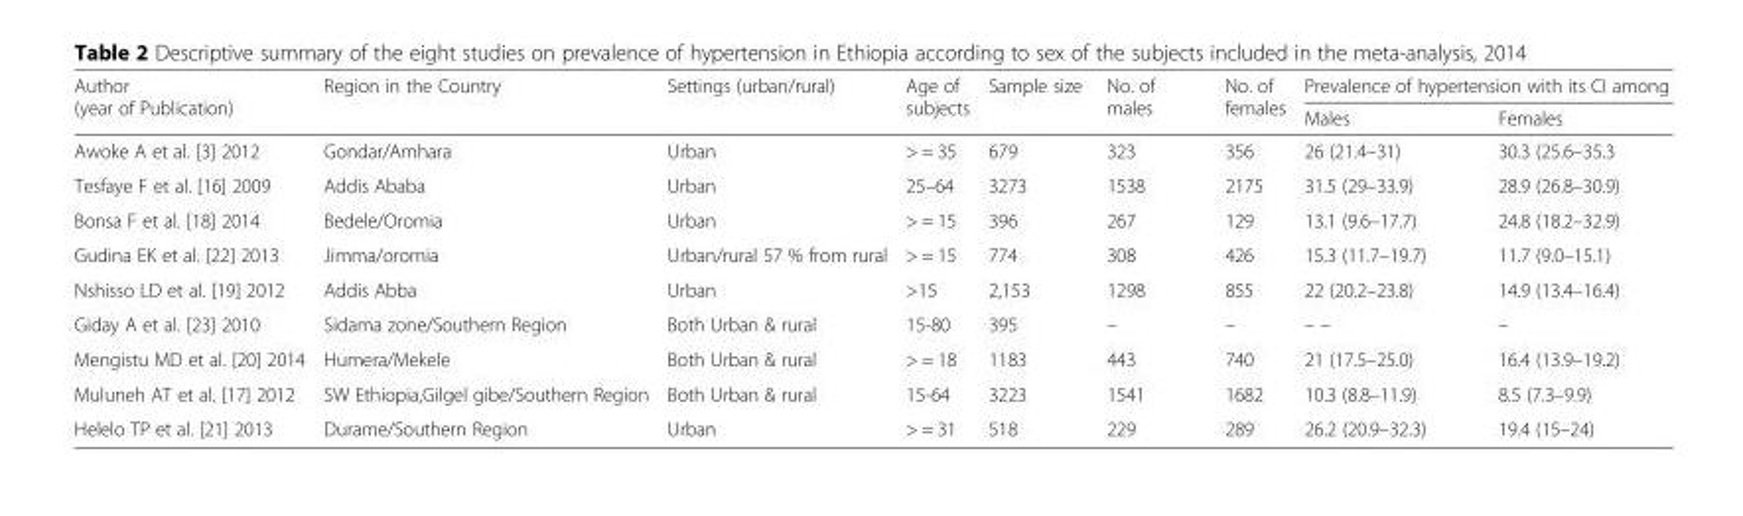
<table><thead><tr><td rowspan="2">Author (year of Publication)</td><td rowspan="2">Region in the Country</td><td rowspan="2">Settings (urban/rural)</td><td rowspan="2">Age of subjects</td><td rowspan="2">Sample size</td><td rowspan="2">No. of males</td><td rowspan="2">No. of females</td><td colspan="2">Prevalence of hypertension with its CI among</td></tr><tr><td>Males</td><td>Females</td></tr></thead><tbody><tr><td>Awoke A et al. [3] 2012</td><td>Gondar/Amhara</td><td>Urban</td><td>&gt; = 35</td><td>679</td><td>323</td><td>356</td><td>26 (21.4–31)</td><td>30.3 (25.6–35.3</td></tr><tr><td>Tesfaye F et al. [16] 2009</td><td>Addis Ababa</td><td>Urban</td><td>25–64</td><td>3273</td><td>1538</td><td>2175</td><td>31.5 (29–33.9)</td><td>28.9 (26.8–30.9)</td></tr><tr><td>Bonsa F et al. [18] 2014</td><td>Bedele/Oromia</td><td>Urban</td><td>&gt; = 15</td><td>396</td><td>267</td><td>129</td><td>13.1 (9.6–17.7)</td><td>24.8 (18.2–32.9)</td></tr><tr><td>Gudina EK et al. [22] 2013</td><td>Jimma/oromia</td><td>Urban/rural 57 % from rural</td><td>&gt; = 15</td><td>774</td><td>308</td><td>426</td><td>15.3 (11.7–19.7)</td><td>11.7 (9.0–15.1)</td></tr><tr><td>Nshisso LD et al. [19] 2012</td><td>Addis Abba</td><td>Urban</td><td>&gt;15</td><td>2,153</td><td>1298</td><td>855</td><td>22 (20.2–23.8)</td><td>14.9 (13.4–16.4)</td></tr><tr><td>Giday A et al. [23] 2010</td><td>Sidama zone/Southern Region</td><td>Both Urban &amp; rural</td><td>15-80</td><td>395</td><td>–</td><td>–</td><td>– –</td><td>–</td></tr><tr><td>Mengistu MD et al. [20] 2014</td><td>Humera/Mekele</td><td>Both Urban &amp; rural</td><td>&gt; = 18</td><td>1183</td><td>443</td><td>740</td><td>21 (17.5–25.0)</td><td>16.4 (13.9–19.2)</td></tr><tr><td>Muluneh AT et al. [17] 2012</td><td>SW Ethiopia,Gilgel gibe/Southern Region</td><td>Both Urban &amp; rural</td><td>15-64</td><td>3223</td><td>1541</td><td>1682</td><td>10.3 (8.8–11.9)</td><td>8.5 (7.3–9.9)</td></tr><tr><td>Helelo TP et al. [21] 2013</td><td>Durame/Southern Region</td><td>Urban</td><td>&gt; = 31</td><td>518</td><td>229</td><td>289</td><td>26.2 (20.9–32.3)</td><td>19.4 (15–24)</td></tr></tbody></table>